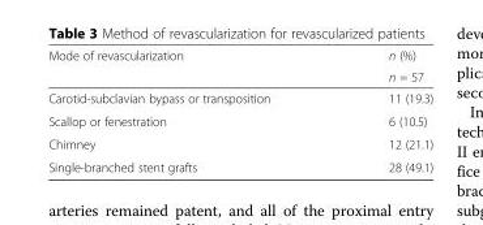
<table><thead><tr><td rowspan="2">Mode of revascularization</td><td rowspan="2">n (%) n = 57</td></tr><tr></tr></thead><tbody><tr><td>Carotid-subclavian bypass or transposition</td><td>11 (19.3)</td></tr><tr><td>Scallop or fenestration</td><td>6 (10.5)</td></tr><tr><td>Chimney</td><td>12 (21.1)</td></tr><tr><td>Single-branched stent grafts</td><td>28 (49.1)</td></tr></tbody></table>